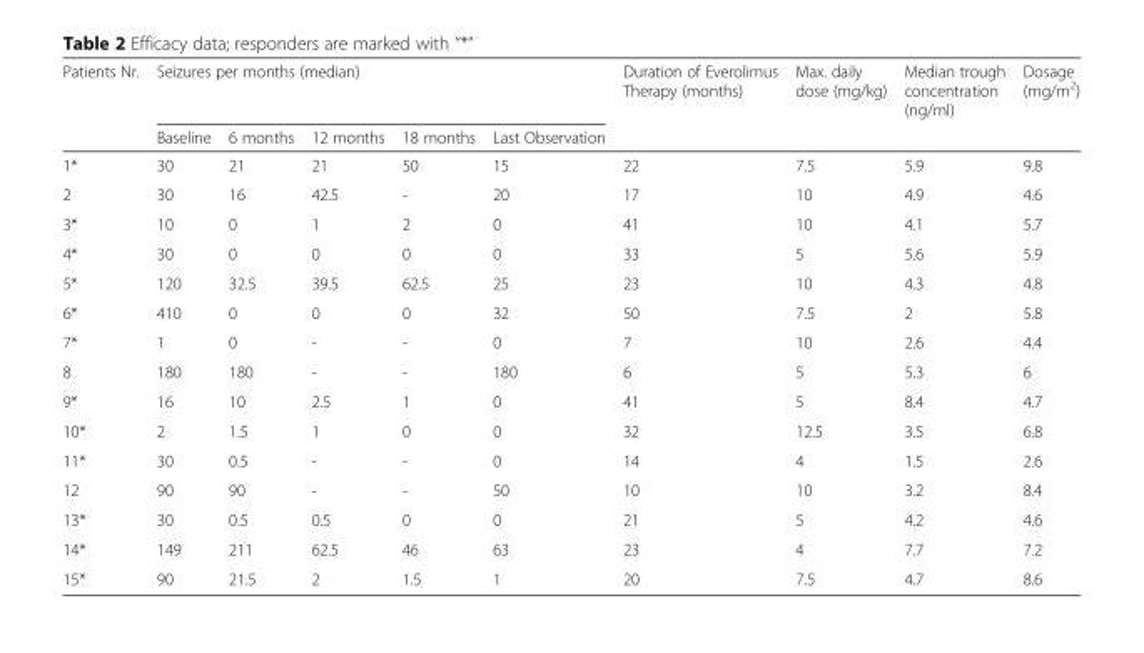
<table><thead><tr><td rowspan="2">Patients Nr.</td><td colspan="5">Seizures per months (median)</td><td rowspan="2">Duration of Everolimus Therapy (months)</td><td rowspan="2">Max. daily dose (mg/kg)</td><td rowspan="2">Median trough concentration (ng/ml)</td><td rowspan="2">Dosage (mg/m<sup>2</sup>)</td></tr><tr><td>Baseline</td><td>6 months</td><td>12 months</td><td>18 months</td><td>Last Observation</td></tr></thead><tbody><tr><td>1*</td><td>30</td><td>21</td><td>21</td><td>50</td><td>15</td><td>22</td><td>7.5</td><td>5.9</td><td>9.8</td></tr><tr><td>2</td><td>30</td><td>16</td><td>42.5</td><td>-</td><td>20</td><td>17</td><td>10</td><td>4.9</td><td>4.6</td></tr><tr><td>3*</td><td>10</td><td>0</td><td>1</td><td>2</td><td>0</td><td>41</td><td>10</td><td>4.1</td><td>5.7</td></tr><tr><td>4*</td><td>30</td><td>0</td><td>0</td><td>0</td><td>0</td><td>33</td><td>5</td><td>5.6</td><td>5.9</td></tr><tr><td>5*</td><td>120</td><td>32.5</td><td>39.5</td><td>62.5</td><td>25</td><td>23</td><td>10</td><td>4.3</td><td>4.8</td></tr><tr><td>6*</td><td>410</td><td>0</td><td>0</td><td>0</td><td>32</td><td>50</td><td>7.5</td><td>2</td><td>5.8</td></tr><tr><td>7*</td><td>1</td><td>0</td><td>-</td><td>-</td><td>0</td><td>7</td><td>10</td><td>2.6</td><td>4.4</td></tr><tr><td>8</td><td>180</td><td>180</td><td>-</td><td>-</td><td>180</td><td>6</td><td>5</td><td>5.3</td><td>6</td></tr><tr><td>9*</td><td>16</td><td>10</td><td>2.5</td><td>1</td><td>0</td><td>41</td><td>5</td><td>8.4</td><td>4.7</td></tr><tr><td>10*</td><td>2</td><td>1.5</td><td>1</td><td>0</td><td>0</td><td>32</td><td>12.5</td><td>3.5</td><td>6.8</td></tr><tr><td>11*</td><td>30</td><td>0.5</td><td>-</td><td>-</td><td>0</td><td>14</td><td>4</td><td>1.5</td><td>2.6</td></tr><tr><td>12</td><td>90</td><td>90</td><td>-</td><td>-</td><td>50</td><td>10</td><td>10</td><td>3.2</td><td>8.4</td></tr><tr><td>13*</td><td>30</td><td>0.5</td><td>0.5</td><td>0</td><td>0</td><td>21</td><td>5</td><td>4.2</td><td>4.6</td></tr><tr><td>14*</td><td>149</td><td>211</td><td>62.5</td><td>46</td><td>63</td><td>23</td><td>4</td><td>7.7</td><td>7.2</td></tr><tr><td>15*</td><td>90</td><td>21.5</td><td>2</td><td>1.5</td><td>1</td><td>20</td><td>7.5</td><td>4.7</td><td>8.6</td></tr></tbody></table>